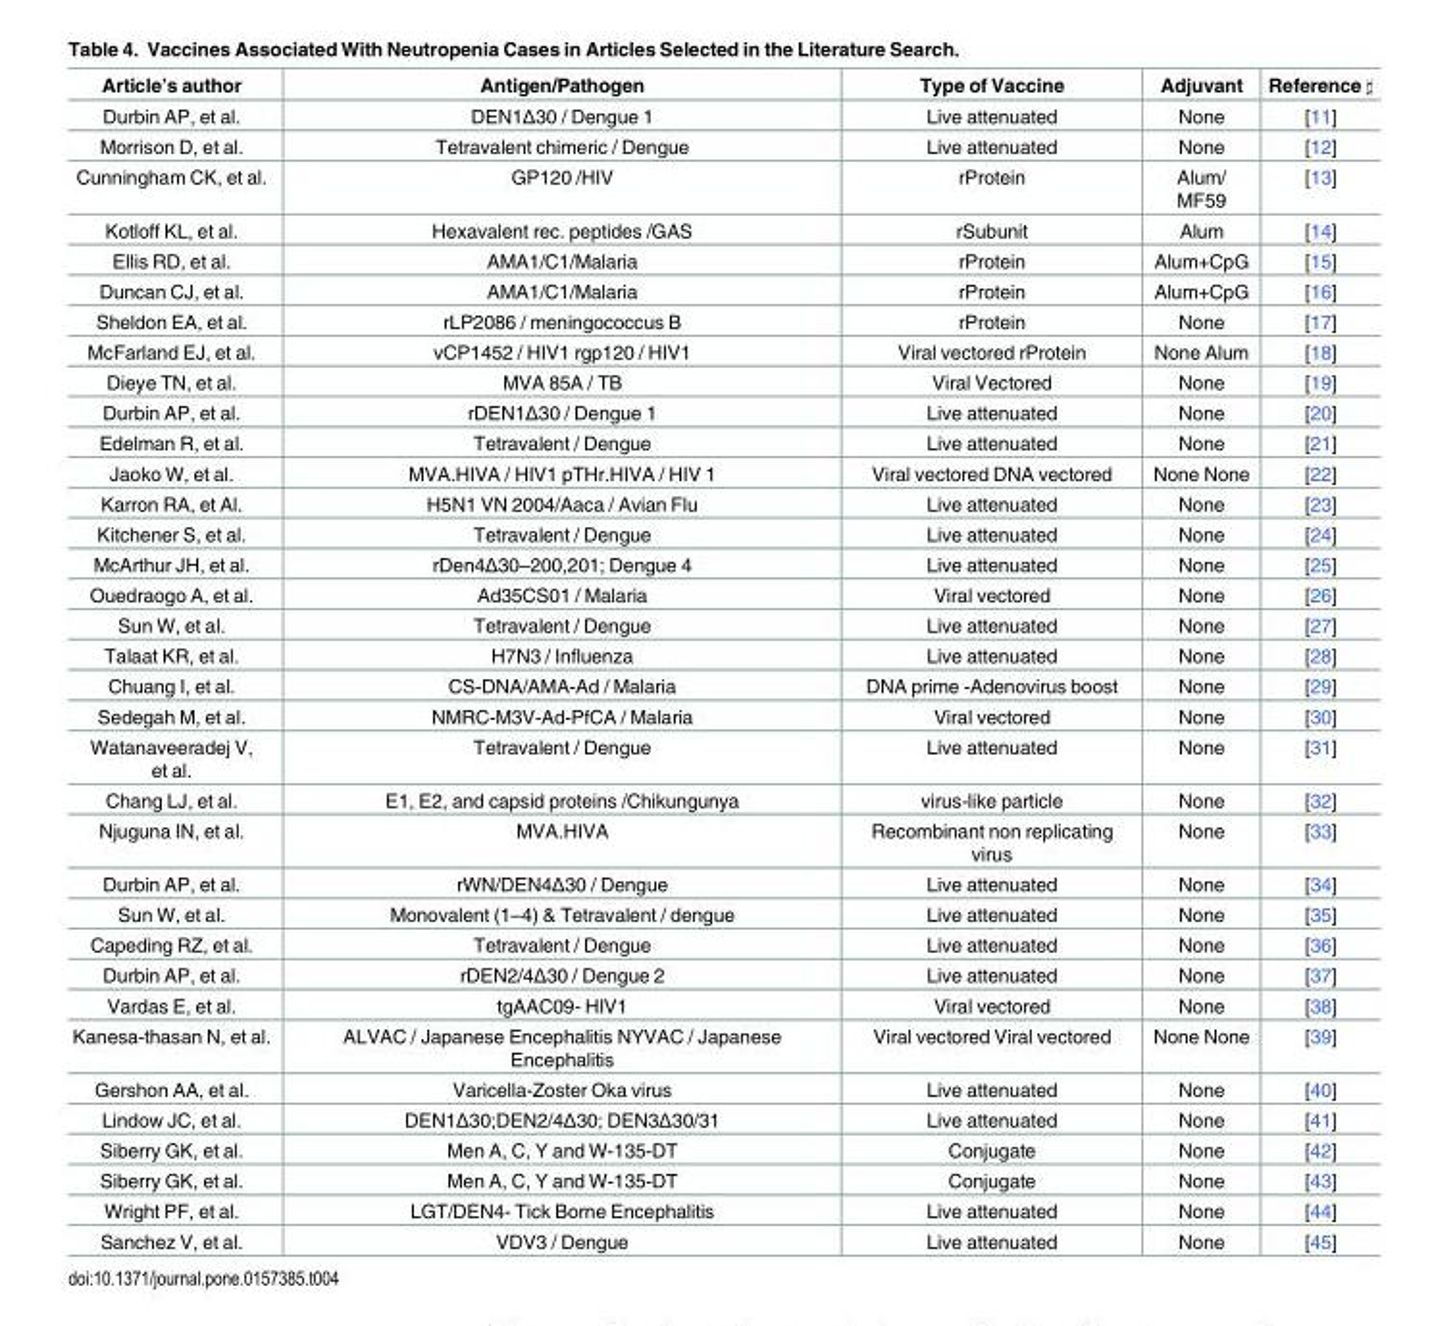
<table><thead><tr><td>Article’s author</td><td>Antigen/Pathogen</td><td>Type of Vaccine</td><td>Adjuvant</td><td>Reference</td></tr></thead><tbody><tr><td>Durbin AP, et al.</td><td>DEN1Δ30 / Dengue 1</td><td>Live attenuated</td><td>None</td><td>[11]</td></tr><tr><td>Morrison D, et al.</td><td>Tetravalent chimeric / Dengue</td><td>Live attenuated</td><td>None</td><td>[12]</td></tr><tr><td>Cunningham CK, et al.</td><td>GP120 /HIV</td><td>rProtein</td><td>Alum/ MF59</td><td>[13]</td></tr><tr><td>Kotloff KL, et al.</td><td>Hexavalent rec. peptides /GAS</td><td>rSubunit</td><td>Alum</td><td>[14]</td></tr><tr><td>Ellis RD, et al.</td><td>AMA1/C1/Malaria</td><td>rProtein</td><td>Alum+CpG</td><td>[15]</td></tr><tr><td>Duncan CJ, et al.</td><td>AMA1/C1/Malaria</td><td>rProtein</td><td>Alum+CpG</td><td>[16]</td></tr><tr><td>Sheldon EA, et al.</td><td>rLP2086 / meningococcus B</td><td>rProtein</td><td>None</td><td>[17]</td></tr><tr><td>McFarland EJ, et al.</td><td>vCP1452 / HIV1 rgp120 / HIV1</td><td>Viral vectored rProtein</td><td>None Alum</td><td>[18]</td></tr><tr><td>Dieye TN, et al.</td><td>MVA 85A / TB</td><td>Viral Vectored</td><td>None</td><td>[19]</td></tr><tr><td>Durbin AP, et al.</td><td>rDEN1Δ30 / Dengue 1</td><td>Live attenuated</td><td>None</td><td>[20]</td></tr><tr><td>Edelman R, et al.</td><td>Tetravalent / Dengue</td><td>Live attenuated</td><td>None</td><td>[21]</td></tr><tr><td>Jaoko W, et al.</td><td>MVA.HIVA / HIV1 pTHr.HIVA / HIV 1</td><td>Viral vectored DNA vectored</td><td>None None</td><td>[22]</td></tr><tr><td>Karron RA, et Al.</td><td>H5N1 VN 2004/Aaca / Avian Flu</td><td>Live attenuated</td><td>None</td><td>[23]</td></tr><tr><td>Kitchener S, et al.</td><td>Tetravalent / Dengue</td><td>Live attenuated</td><td>None</td><td>[24]</td></tr><tr><td>McArthur JH, et al.</td><td>rDen4Δ30–200,201; Dengue 4</td><td>Live attenuated</td><td>None</td><td>[25]</td></tr><tr><td>Ouedraogo A, et al.</td><td>Ad35CS01 / Malaria</td><td>Viral vectored</td><td>None</td><td>[26]</td></tr><tr><td>Sun W, et al.</td><td>Tetravalent / Dengue</td><td>Live attenuated</td><td>None</td><td>[27]</td></tr><tr><td>Talaat KR, et al.</td><td>H7N3 / Influenza</td><td>Live attenuated</td><td>None</td><td>[28]</td></tr><tr><td>Chuang I, et al.</td><td>CS-DNA/AMA-Ad / Malaria</td><td>DNA prime -Adenovirus boost</td><td>None</td><td>[29]</td></tr><tr><td>Sedegah M, et al.</td><td>NMRC-M3V-Ad-PfCA / Malaria</td><td>Viral vectored</td><td>None</td><td>[30]</td></tr><tr><td>Watanaveeradej V, et al.</td><td>Tetravalent / Dengue</td><td>Live attenuated</td><td>None</td><td>[31]</td></tr><tr><td>Chang LJ, et al.</td><td>E1, E2, and capsid proteins /Chikungunya</td><td>virus-like particle</td><td>None</td><td>[32]</td></tr><tr><td>Njuguna IN, et al.</td><td>MVA.HIVA</td><td>Recombinant non replicating virus</td><td>None</td><td>[33]</td></tr><tr><td>Durbin AP, et al.</td><td>rWN/DEN4Δ30 / Dengue</td><td>Live attenuated</td><td>None</td><td>[34]</td></tr><tr><td>Sun W, et al.</td><td>Monovalent (1–4) &amp; Tetravalent / dengue</td><td>Live attenuated</td><td>None</td><td>[35]</td></tr><tr><td>Capeding RZ, et al.</td><td>Tetravalent / Dengue</td><td>Live attenuated</td><td>None</td><td>[36]</td></tr><tr><td>Durbin AP, et al.</td><td>rDEN2/4Δ30 / Dengue 2</td><td>Live attenuated</td><td>None</td><td>[37]</td></tr><tr><td>Vardas E, et al.</td><td>tgAAC09- HIV1</td><td>Viral vectored</td><td>None</td><td>[38]</td></tr><tr><td>Kanesa-thasan N, et al.</td><td>ALVAC / Japanese Encephalitis NYVAC / Japanese Encephalitis</td><td>Viral vectored Viral vectored</td><td>None None</td><td>[39]</td></tr><tr><td>Gershon AA, et al.</td><td>Varicella-Zoster Oka virus</td><td>Live attenuated</td><td>None</td><td>[40]</td></tr><tr><td>Lindow JC, et al.</td><td>DEN1Δ30;DEN2/4Δ30; DEN3Δ30/31</td><td>Live attenuated</td><td>None</td><td>[41]</td></tr><tr><td>Siberry GK, et al.</td><td>Men A, C, Y and W-135-DT</td><td>Conjugate</td><td>None</td><td>[42]</td></tr><tr><td>Siberry GK, et al.</td><td>Men A, C, Y and W-135-DT</td><td>Conjugate</td><td>None</td><td>[43]</td></tr><tr><td>Wright PF, et al.</td><td>LGT/DEN4- Tick Borne Encephalitis</td><td>Live attenuated</td><td>None</td><td>[44]</td></tr><tr><td>Sanchez V, et al.</td><td>VDV3 / Dengue</td><td>Live attenuated</td><td>None</td><td>[45]</td></tr></tbody></table>